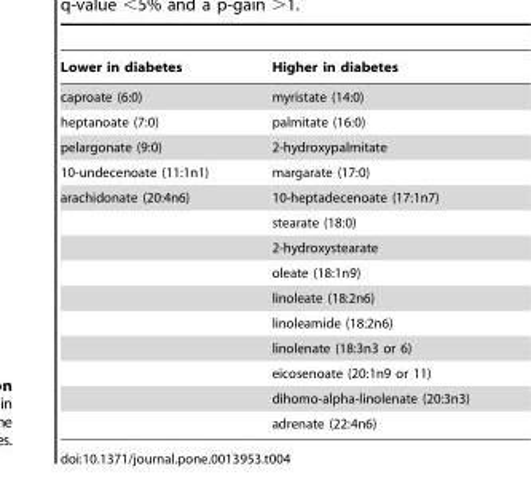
<table><thead><tr><td>Lower in diabetes</td><td>Higher in diabetes</td></tr></thead><tbody><tr><td>caproate (6:0)</td><td>myristate (14:0)</td></tr><tr><td>heptanoate (7:0)</td><td>palmitate (16:0)</td></tr><tr><td>pelargonate (9:0)</td><td>2-hydroxypalmitate</td></tr><tr><td>10-undecenoate (11:1n1)</td><td>margarate (17:0)</td></tr><tr><td rowspan="10">arachidonate (20:4n6)</td><td>10-heptadecenoate (17:1n7)</td></tr><tr><td>stearate (18:0)</td></tr><tr><td>2-hydroxystearate</td></tr><tr><td>oleate (18:1n9)</td></tr><tr><td>linoleate (18:2n6)</td></tr><tr><td>linoleamide (18:2n6)</td></tr><tr><td>linolenate (18:3n3 or 6)</td></tr><tr><td>eicosenoate (20:1n9 or 11)</td></tr><tr><td>dihomo-alpha-linolenate (20:3n3)</td></tr><tr><td>adrenate (22:4n6)</td></tr></tbody></table>